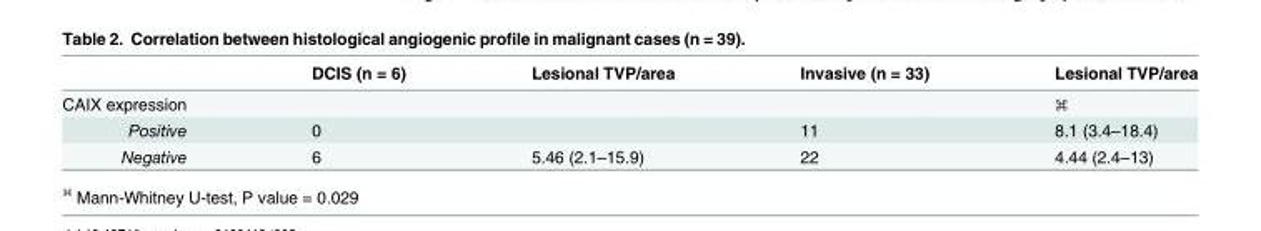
<table><thead><tr><td></td><td>DCIS (n = 6)</td><td>Lesional TVP/area</td><td>Invasive (n = 33)</td><td>Lesional TVP/area</td></tr></thead><tbody><tr><td>CAIX expression</td><td></td><td></td><td></td><td>⌘</td></tr><tr><td>Positive</td><td>0</td><td></td><td>11</td><td>8.1 (3.4–18.4)</td></tr><tr><td>Negative</td><td>6</td><td>5.46 (2.1–15.9)</td><td>22</td><td>4.44 (2.4–13)</td></tr></tbody></table>